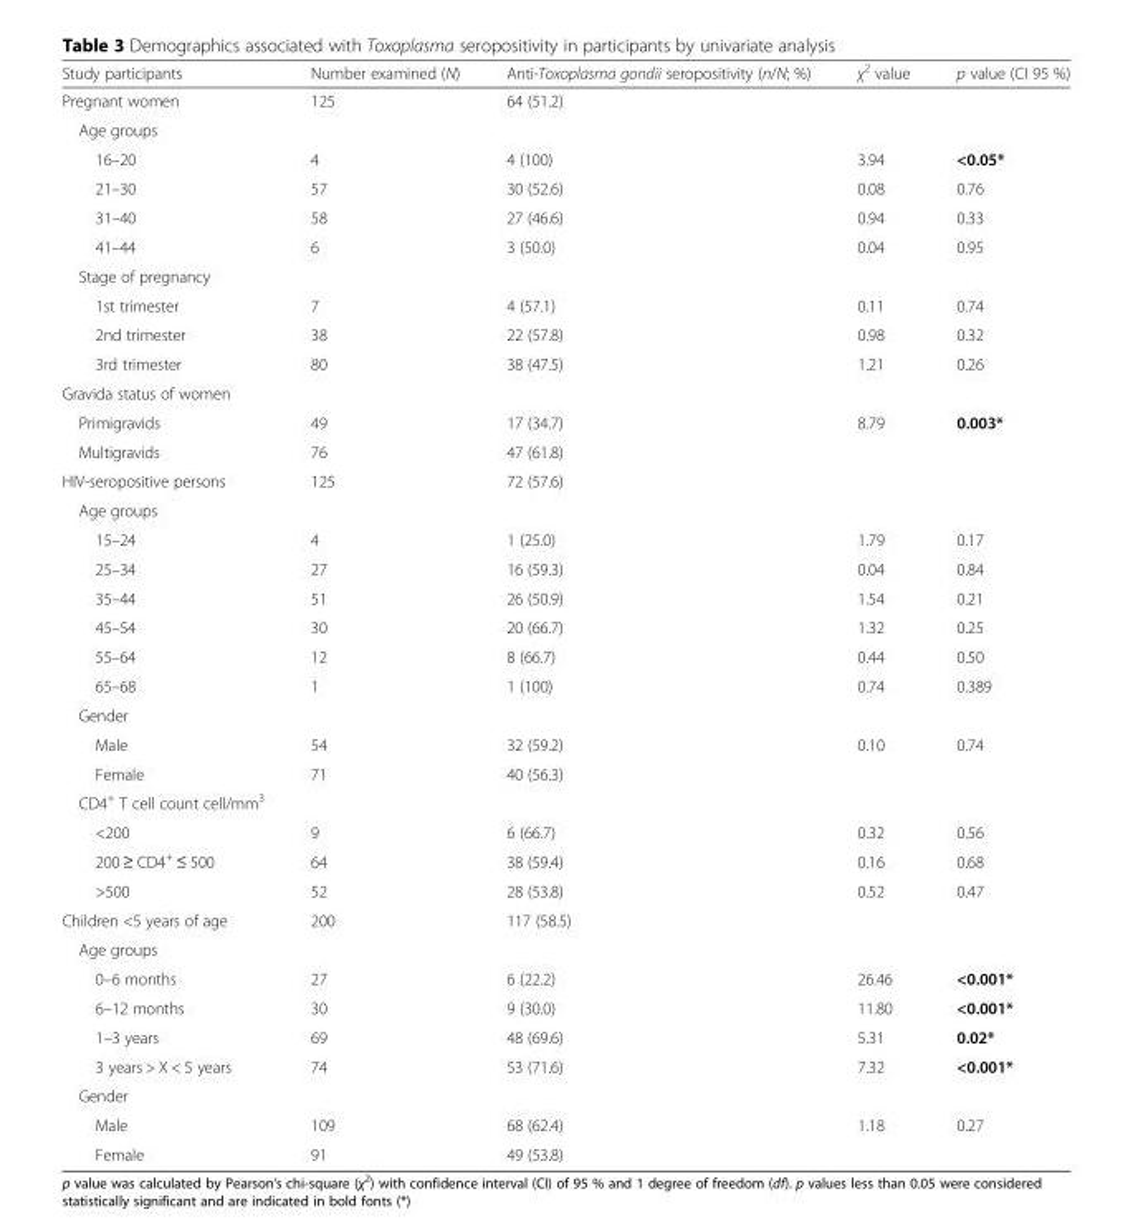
<table><thead><tr><td>Study participants</td><td>Number examined (N)</td><td>Anti-Toxoplasma gondii seropositivity (n/N; %)</td><td>χ<sup>2</sup> value</td><td>p value (CI 95 %)</td></tr></thead><tbody><tr><td>Pregnant women</td><td>125</td><td>64 (51.2)</td><td></td><td></td></tr><tr><td colspan="5">Age groups</td></tr><tr><td>16–20</td><td>4</td><td>4 (100)</td><td>3.94</td><td>&lt;0.05*</td></tr><tr><td>21–30</td><td>57</td><td>30 (52.6)</td><td>0.08</td><td>0.76</td></tr><tr><td>31–40</td><td>58</td><td>27 (46.6)</td><td>0.94</td><td>0.33</td></tr><tr><td>41–44</td><td>6</td><td>3 (50.0)</td><td>0.04</td><td>0.95</td></tr><tr><td colspan="5">Stage of pregnancy</td></tr><tr><td>1st trimester</td><td>7</td><td>4 (57.1)</td><td>0.11</td><td>0.74</td></tr><tr><td>2nd trimester</td><td>38</td><td>22 (57.8)</td><td>0.98</td><td>0.32</td></tr><tr><td>3rd trimester</td><td>80</td><td>38 (47.5)</td><td>1.21</td><td>0.26</td></tr><tr><td colspan="5">Gravida status of women</td></tr><tr><td>Primigravids</td><td>49</td><td>17 (34.7)</td><td>8.79</td><td>0.003*</td></tr><tr><td>Multigravids</td><td>76</td><td>47 (61.8)</td><td></td><td></td></tr><tr><td>HIV-seropositive persons</td><td>125</td><td>72 (57.6)</td><td></td><td></td></tr><tr><td colspan="5">Age groups</td></tr><tr><td>15–24</td><td>4</td><td>1 (25.0)</td><td>1.79</td><td>0.17</td></tr><tr><td>25–34</td><td>27</td><td>16 (59.3)</td><td>0.04</td><td>0.84</td></tr><tr><td>35–44</td><td>51</td><td>26 (50.9)</td><td>1.54</td><td>0.21</td></tr><tr><td>45–54</td><td>30</td><td>20 (66.7)</td><td>1.32</td><td>0.25</td></tr><tr><td>55–64</td><td>12</td><td>8 (66.7)</td><td>0.44</td><td>0.50</td></tr><tr><td>65–68</td><td>1</td><td>1 (100)</td><td>0.74</td><td>0.389</td></tr><tr><td colspan="5">Gender</td></tr><tr><td>Male</td><td>54</td><td>32 (59.2)</td><td>0.10</td><td>0.74</td></tr><tr><td>Female</td><td>71</td><td>40 (56.3)</td><td></td><td></td></tr><tr><td colspan="5">CD4<sup>+</sup> T cell count cell/mm<sup>3</sup></td></tr><tr><td>&lt;200</td><td>9</td><td>6 (66.7)</td><td>0.32</td><td>0.56</td></tr><tr><td>200 ≥ CD4<sup>+</sup> ≤ 500</td><td>64</td><td>38 (59.4)</td><td>0.16</td><td>0.68</td></tr><tr><td>&gt;500</td><td>52</td><td>28 (53.8)</td><td>0.52</td><td>0.47</td></tr><tr><td>Children &lt;5 years of age</td><td>200</td><td>117 (58.5)</td><td></td><td></td></tr><tr><td colspan="5">Age groups</td></tr><tr><td>0–6 months</td><td>27</td><td>6 (22.2)</td><td>26.46</td><td>&lt;0.001*</td></tr><tr><td>6–12 months</td><td>30</td><td>9 (30.0)</td><td>11.80</td><td>&lt;0.001*</td></tr><tr><td>1–3 years</td><td>69</td><td>48 (69.6)</td><td>5.31</td><td>0.02*</td></tr><tr><td>3 years &gt; X &lt; 5 years</td><td>74</td><td>53 (71.6)</td><td>7.32</td><td>&lt;0.001*</td></tr><tr><td colspan="5">Gender</td></tr><tr><td>Male</td><td>109</td><td>68 (62.4)</td><td>1.18</td><td>0.27</td></tr><tr><td>Female</td><td>91</td><td>49 (53.8)</td><td></td><td></td></tr></tbody></table>